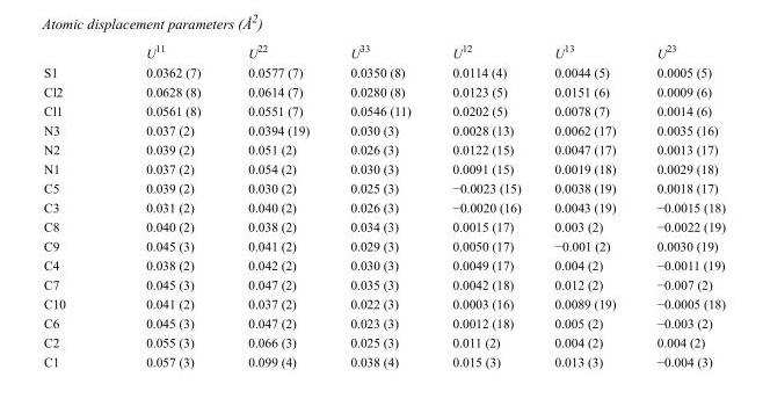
<table><thead><tr><td></td><td>U<sup>11</sup></td><td>U<sup>22</sup></td><td>U<sup>33</sup></td><td>U<sup>12</sup></td><td>U<sup>13</sup></td><td>U<sup>23</sup></td></tr></thead><tbody><tr><td>S1</td><td>0.0362 (7)</td><td>0.0577 (7)</td><td>0.0350 (8)</td><td>0.0114 (4)</td><td>0.0044 (5)</td><td>0.0005 (5)</td></tr><tr><td>Cl2</td><td>0.0628 (8)</td><td>0.0614 (7)</td><td>0.0280 (8)</td><td>0.0123 (5)</td><td>0.0151 (6)</td><td>0.0009 (6)</td></tr><tr><td>Cl1</td><td>0.0561 (8)</td><td>0.0551 (7)</td><td>0.0546 (11)</td><td>0.0202 (5)</td><td>0.0078 (7)</td><td>0.0014 (6)</td></tr><tr><td>N3</td><td>0.037 (2)</td><td>0.0394 (19)</td><td>0.030 (3)</td><td>0.0028 (13)</td><td>0.0062 (17)</td><td>0.0035 (16)</td></tr><tr><td>N2</td><td>0.039 (2)</td><td>0.051 (2)</td><td>0.026 (3)</td><td>0.0122 (15)</td><td>0.0047 (17)</td><td>0.0013 (17)</td></tr><tr><td>N1</td><td>0.037 (2)</td><td>0.054 (2)</td><td>0.030 (3)</td><td>0.0091 (15)</td><td>0.0019 (18)</td><td>0.0029 (18)</td></tr><tr><td>C5</td><td>0.039 (2)</td><td>0.030 (2)</td><td>0.025 (3)</td><td>−0.0023 (15)</td><td>0.0038 (19)</td><td>0.0018 (17)</td></tr><tr><td>C3</td><td>0.031 (2)</td><td>0.040 (2)</td><td>0.026 (3)</td><td>−0.0020 (16)</td><td>0.0043 (19)</td><td>−0.0015 (18)</td></tr><tr><td>C8</td><td>0.040 (2)</td><td>0.038 (2)</td><td>0.034 (3)</td><td>0.0015 (17)</td><td>0.003 (2)</td><td>−0.0022 (19)</td></tr><tr><td>C9</td><td>0.045 (3)</td><td>0.041 (2)</td><td>0.029 (3)</td><td>0.0050 (17)</td><td>−0.001 (2)</td><td>0.0030 (19)</td></tr><tr><td>C4</td><td>0.038 (2)</td><td>0.042 (2)</td><td>0.030 (3)</td><td>0.0049 (17)</td><td>0.004 (2)</td><td>−0.0011 (19)</td></tr><tr><td>C7</td><td>0.045 (3)</td><td>0.047 (2)</td><td>0.035 (3)</td><td>0.0042 (18)</td><td>0.012 (2)</td><td>−0.007 (2)</td></tr><tr><td>C10</td><td>0.041 (2)</td><td>0.037 (2)</td><td>0.022 (3)</td><td>0.0003 (16)</td><td>0.0089 (19)</td><td>−0.0005 (18)</td></tr><tr><td>C6</td><td>0.045 (3)</td><td>0.047 (2)</td><td>0.023 (3)</td><td>0.0012 (18)</td><td>0.005 (2)</td><td>−0.003 (2)</td></tr><tr><td>C2</td><td>0.055 (3)</td><td>0.066 (3)</td><td>0.025 (3)</td><td>0.011 (2)</td><td>0.004 (2)</td><td>0.004 (2)</td></tr><tr><td>C1</td><td>0.057 (3)</td><td>0.099 (4)</td><td>0.038 (4)</td><td>0.015 (3)</td><td>0.013 (3)</td><td>−0.004 (3)</td></tr></tbody></table>